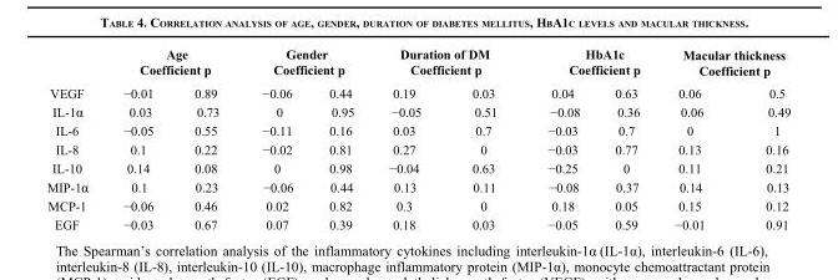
<table><thead><tr><td rowspan="3">VEGF</td><td rowspan="2" colspan="2">Age Coefficient p</td><td rowspan="2" colspan="2">Gender Coefficient p</td><td rowspan="2" colspan="2">Duration of DM Coefficient p</td><td rowspan="2" colspan="2">HbA1c Coefficient p</td><td rowspan="2" colspan="2">Macular thickness Coefficient p</td></tr><tr></tr><tr><td>−0.01</td><td>0.89</td><td>−0.06</td><td>0.44</td><td>0.19</td><td>0.03</td><td>0.04</td><td>0.63</td><td>0.06</td><td>0.5</td></tr></thead><tbody><tr><td>IL-1α</td><td>0.03</td><td>0.73</td><td>0</td><td>0.95</td><td>−0.05</td><td>0.51</td><td>−0.08</td><td>0.36</td><td>0.06</td><td>0.49</td></tr><tr><td>IL-6</td><td>−0.05</td><td>0.55</td><td>−0.11</td><td>0.16</td><td>0.03</td><td>0.7</td><td>−0.03</td><td>0.7</td><td>0</td><td>1</td></tr><tr><td>IL-8</td><td>0.1</td><td>0.22</td><td>−0.02</td><td>0.81</td><td>0.27</td><td>0</td><td>−0.03</td><td>0.77</td><td>0.13</td><td>0.16</td></tr><tr><td>IL-10</td><td>0.14</td><td>0.08</td><td>0</td><td>0.98</td><td>−0.04</td><td>0.63</td><td>−0.25</td><td>0</td><td>0.11</td><td>0.21</td></tr><tr><td>MIP-1α</td><td>0.1</td><td>0.23</td><td>−0.06</td><td>0.44</td><td>0.13</td><td>0.11</td><td>−0.08</td><td>0.37</td><td>0.14</td><td>0.13</td></tr><tr><td>MCP-1</td><td>−0.06</td><td>0.46</td><td>0.02</td><td>0.82</td><td>0.3</td><td>0</td><td>0.18</td><td>0.05</td><td>0.15</td><td>0.12</td></tr><tr><td>EGF</td><td>−0.03</td><td>0.67</td><td>0.07</td><td>0.39</td><td>0.18</td><td>0.03</td><td>−0.05</td><td>0.59</td><td>−0.01</td><td>0.91</td></tr></tbody></table>